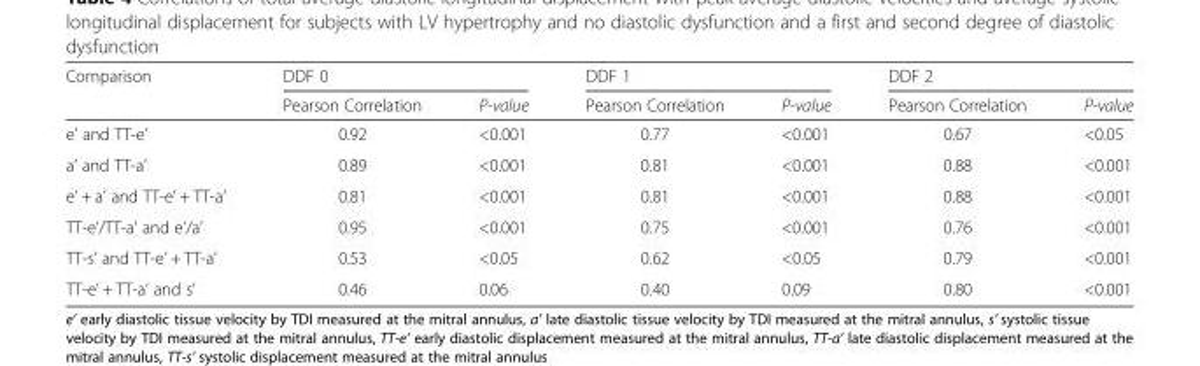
<table><thead><tr><td rowspan="2">Comparison</td><td colspan="2">DDF 0</td><td colspan="2">DDF 1</td><td colspan="2">DDF 2</td></tr><tr><td>Pearson Correlation</td><td>P-value</td><td>Pearson Correlation</td><td>P-value</td><td>Pearson Correlation</td><td>P-value</td></tr></thead><tbody><tr><td>e’ and TT-e’</td><td>0.92</td><td>&lt;0.001</td><td>0.77</td><td>&lt;0.001</td><td>0.67</td><td>&lt;0.05</td></tr><tr><td>a’ and TT-a’</td><td>0.89</td><td>&lt;0.001</td><td>0.81</td><td>&lt;0.001</td><td>0.88</td><td>&lt;0.001</td></tr><tr><td>e’ + a’ and TT-e’ + TT-a’</td><td>0.81</td><td>&lt;0.001</td><td>0.81</td><td>&lt;0.001</td><td>0.88</td><td>&lt;0.001</td></tr><tr><td>TT-e’/TT-a’ and e’/a’</td><td>0.95</td><td>&lt;0.001</td><td>0.75</td><td>&lt;0.001</td><td>0.76</td><td>&lt;0.001</td></tr><tr><td>TT-s’ and TT-e’ + TT-a’</td><td>0.53</td><td>&lt;0.05</td><td>0.62</td><td>&lt;0.05</td><td>0.79</td><td>&lt;0.001</td></tr><tr><td>TT-e’ + TT-a’ and s’</td><td>0.46</td><td>0.06</td><td>0.40</td><td>0.09</td><td>0.80</td><td>&lt;0.001</td></tr></tbody></table>